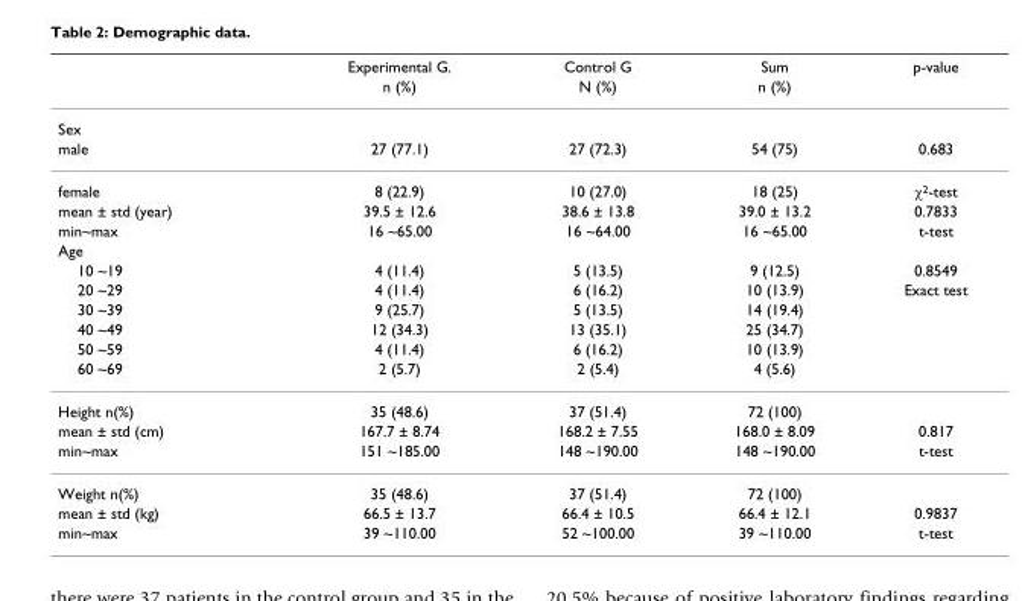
<table><thead><tr><td rowspan="2"></td><td rowspan="2">Experimental G. n (%)</td><td rowspan="2">Control G N (%)</td><td rowspan="2">Sum n (%)</td><td rowspan="2">p-value</td></tr><tr></tr></thead><tbody><tr><td colspan="5">Sex</td></tr><tr><td>male</td><td>27 (77.1)</td><td>27 (72.3)</td><td>54 (75)</td><td>0.683</td></tr><tr><td>female</td><td>8 (22.9)</td><td>10 (27.0)</td><td>18 (25)</td><td>χ<sup>2</sup>-test</td></tr><tr><td>mean ± std (year)</td><td>39.5 ± 12.6</td><td>38.6 ± 13.8</td><td>39.0 ± 13.2</td><td>0.7833</td></tr><tr><td>min~max</td><td>16 ~65.00</td><td>16 ~64.00</td><td>16 ~65.00</td><td>t-test</td></tr><tr><td colspan="5">Age</td></tr><tr><td>10 ~19</td><td>4 (11.4)</td><td>5 (13.5)</td><td>9 (12.5)</td><td>0.8549</td></tr><tr><td>20 ~29</td><td>4 (11.4)</td><td>6 (16.2)</td><td>10 (13.9)</td><td>Exact test</td></tr><tr><td>30 ~39</td><td>9 (25.7)</td><td>5 (13.5)</td><td>14 (19.4)</td><td></td></tr><tr><td>40 ~49</td><td>12 (34.3)</td><td>13 (35.1)</td><td>25 (34.7)</td><td></td></tr><tr><td>50 ~59</td><td>4 (11.4)</td><td>6 (16.2)</td><td>10 (13.9)</td><td></td></tr><tr><td>60 ~69</td><td>2 (5.7)</td><td>2 (5.4)</td><td>4 (5.6)</td><td></td></tr><tr><td>Height n(%)</td><td>35 (48.6)</td><td>37 (51.4)</td><td>72 (100)</td><td></td></tr><tr><td>mean ± std (cm)</td><td>167.7 ± 8.74</td><td>168.2 ± 7.55</td><td>168.0 ± 8.09</td><td>0.817</td></tr><tr><td>min~max</td><td>151 ~185.00</td><td>148 ~190.00</td><td>148 ~190.00</td><td>t-test</td></tr><tr><td>Weight n(%)</td><td>35 (48.6)</td><td>37 (51.4)</td><td>72 (100)</td><td></td></tr><tr><td>mean ± std (kg)</td><td>66.5 ± 13.7</td><td>66.4 ± 10.5</td><td>66.4 ± 12.1</td><td>0.9837</td></tr><tr><td>min~max</td><td>39 ~110.00</td><td>52 ~100.00</td><td>39 ~110.00</td><td>t-test</td></tr></tbody></table>